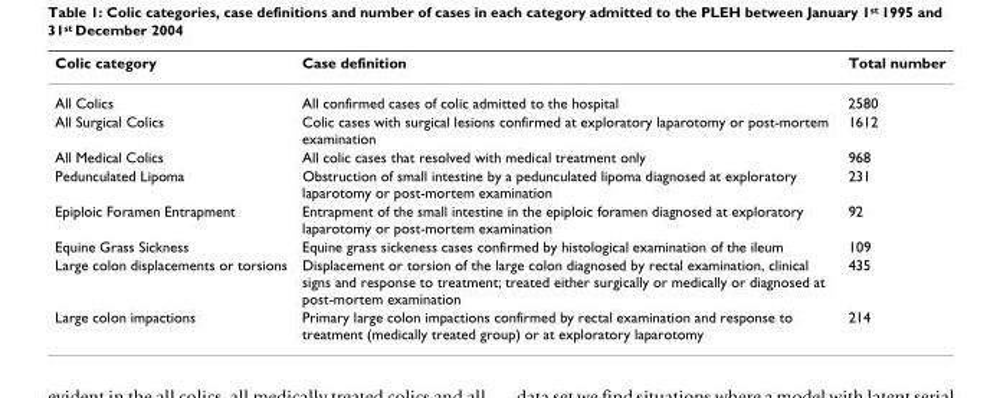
<table><thead><tr><td>Colic category</td><td>Case definition</td><td>Total number</td></tr></thead><tbody><tr><td>All Colics</td><td>All confirmed cases of colic admitted to the hospital</td><td>2580</td></tr><tr><td>All Surgical Colics</td><td>Colic cases with surgical lesions confirmed at exploratory laparotomy or post-mortem examination</td><td>1612</td></tr><tr><td>All Medical Colics</td><td>All colic cases that resolved with medical treatment only</td><td>968</td></tr><tr><td>Pedunculated Lipoma</td><td>Obstruction of small intestine by a pedunculated lipoma diagnosed at exploratory laparotomy or post-mortem examination</td><td>231</td></tr><tr><td>Epiploic Foramen Entrapment</td><td>Entrapment of the small intestine in the epiploic foramen diagnosed at exploratory laparotomy or post-mortem examination</td><td>92</td></tr><tr><td>Equine Grass Sickness</td><td>Equine grass sickeness cases confirmed by histological examination of the ileum</td><td>109</td></tr><tr><td>Large colon displacements or torsions</td><td>Displacement or torsion of the large colon diagnosed by rectal examination, clinical signs and response to treatment; treated either surgically or medically or diagnosed at post-mortem examination</td><td>435</td></tr><tr><td>Large colon impactions</td><td>Primary large colon impactions confirmed by rectal examination and response to treatment (medically treated group) or at exploratory laparotomy</td><td>214</td></tr></tbody></table>